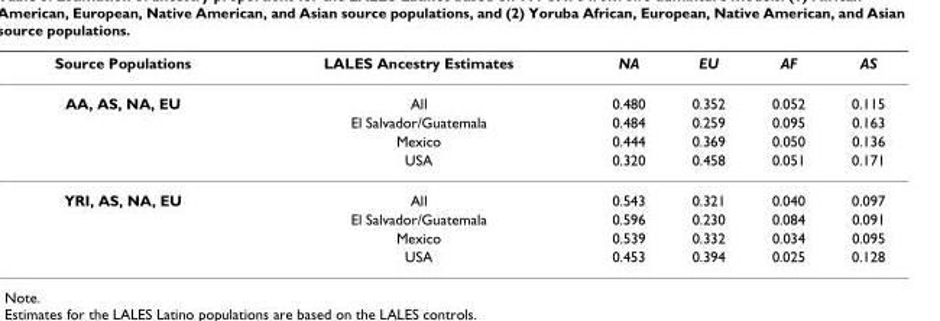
<table><thead><tr><td>Source Populations</td><td>LALES Ancestry Estimates</td><td>NA</td><td>EU</td><td>AF</td><td>AS</td></tr></thead><tbody><tr><td rowspan="4">AA, AS, NA, EU</td><td>All</td><td>0.480</td><td>0.352</td><td>0.052</td><td>0.115</td></tr><tr><td>El Salvador/Guatemala</td><td>0.484</td><td>0.259</td><td>0.095</td><td>0.163</td></tr><tr><td>Mexico</td><td>0.444</td><td>0.369</td><td>0.050</td><td>0.136</td></tr><tr><td>USA</td><td>0.320</td><td>0.458</td><td>0.051</td><td>0.171</td></tr><tr><td rowspan="4">YRI, AS, NA, EU</td><td>All</td><td>0.543</td><td>0.321</td><td>0.040</td><td>0.097</td></tr><tr><td>El Salvador/Guatemala</td><td>0.596</td><td>0.230</td><td>0.084</td><td>0.091</td></tr><tr><td>Mexico</td><td>0.539</td><td>0.332</td><td>0.034</td><td>0.095</td></tr><tr><td>USA</td><td>0.453</td><td>0.394</td><td>0.025</td><td>0.128</td></tr></tbody></table>